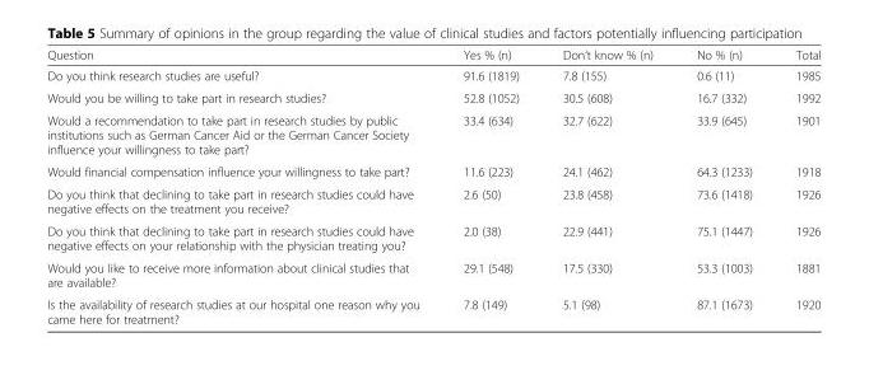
<table><thead><tr><td>Question</td><td>Yes % (n)</td><td>Don’t know % (n)</td><td>No % (n)</td><td>Total</td></tr></thead><tbody><tr><td>Do you think research studies are useful?</td><td>91.6 (1819)</td><td>7.8 (155)</td><td>0.6 (11)</td><td>1985</td></tr><tr><td>Would you be willing to take part in research studies?</td><td>52.8 (1052)</td><td>30.5 (608)</td><td>16.7 (332)</td><td>1992</td></tr><tr><td>Would a recommendation to take part in research studies by public institutions such as German Cancer Aid or the German Cancer Society influence your willingness to take part?</td><td>33.4 (634)</td><td>32.7 (622)</td><td>33.9 (645)</td><td>1901</td></tr><tr><td>Would financial compensation influence your willingness to take part?</td><td>11.6 (223)</td><td>24.1 (462)</td><td>64.3 (1233)</td><td>1918</td></tr><tr><td>Do you think that declining to take part in research studies could have negative effects on the treatment you receive?</td><td>2.6 (50)</td><td>23.8 (458)</td><td>73.6 (1418)</td><td>1926</td></tr><tr><td>Do you think that declining to take part in research studies could have negative effects on your relationship with the physician treating you?</td><td>2.0 (38)</td><td>22.9 (441)</td><td>75.1 (1447)</td><td>1926</td></tr><tr><td>Would you like to receive more information about clinical studies that are available?</td><td>29.1 (548)</td><td>17.5 (330)</td><td>53.3 (1003)</td><td>1881</td></tr><tr><td>Is the availability of research studies at our hospital one reason why you came here for treatment?</td><td>7.8 (149)</td><td>5.1 (98)</td><td>87.1 (1673)</td><td>1920</td></tr></tbody></table>